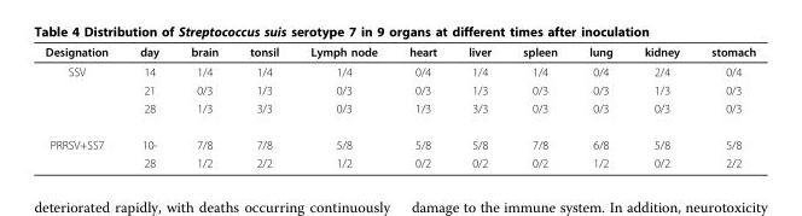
<table><thead><tr><td>Designation</td><td>day</td><td>brain</td><td>tonsil</td><td>Lymph node</td><td>heart</td><td>liver</td><td>spleen</td><td>lung</td><td>kidney</td><td>stomach</td></tr></thead><tbody><tr><td rowspan="3">SSV</td><td>14</td><td>1/4</td><td>1/4</td><td>1/4</td><td>0/4</td><td>1/4</td><td>1/4</td><td>0/4</td><td>2/4</td><td>0/4</td></tr><tr><td>21</td><td>0/3</td><td>1/3</td><td>0/3</td><td>0/3</td><td>1/3</td><td>0/3</td><td>0/3</td><td>1/3</td><td>0/3</td></tr><tr><td>28</td><td>1/3</td><td>3/3</td><td>0/3</td><td>1/3</td><td>3/3</td><td>0/3</td><td>0/3</td><td>0/3</td><td>0/3</td></tr><tr><td rowspan="2">PRRSV+SS7</td><td>10-</td><td>7/8</td><td>7/8</td><td>5/8</td><td>5/8</td><td>5/8</td><td>7/8</td><td>6/8</td><td>5/8</td><td>5/8</td></tr><tr><td>28</td><td>1/2</td><td>2/2</td><td>1/2</td><td>0/2</td><td>0/2</td><td>0/2</td><td>1/2</td><td>0/2</td><td>2/2</td></tr></tbody></table>